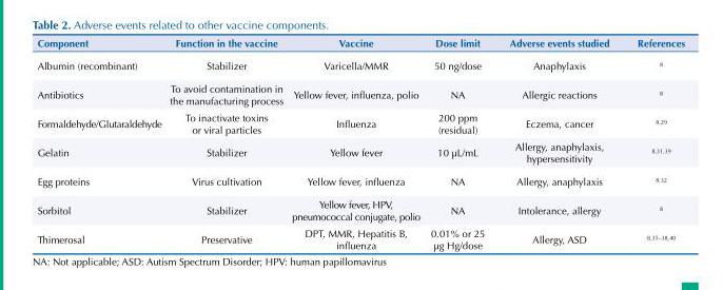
<table><thead><tr><td>Component</td><td>Function in the vaccine</td><td>Vaccine</td><td>Dose limit</td><td>Adverse events studied</td><td>References</td></tr></thead><tbody><tr><td>Albumin (recombinant)</td><td>Stabilizer</td><td>Varicella/MMR</td><td>50 ng/dose</td><td>Anaphylaxis</td><td>8</td></tr><tr><td>Antibiotics</td><td>To avoid contamination in the manufacturing process</td><td>Yellow fever, influenza, polio</td><td>NA</td><td>Allergic reactions</td><td>8</td></tr><tr><td>Formaldehyde/Glutaraldehyde</td><td>To inactivate toxins or viral particles</td><td>Influenza</td><td>200 ppm (residual)</td><td>Eczema, cancer</td><td>8,29</td></tr><tr><td>Gelatin</td><td>Stabilizer</td><td>Yellow fever</td><td>10 µL/mL</td><td>Allergy, anaphylaxis, hypersensitivity</td><td>8,31,39</td></tr><tr><td>Egg proteins</td><td>Virus cultivation</td><td>Yellow fever, influenza</td><td>NA</td><td>Allergy, anaphylaxis</td><td>8,32</td></tr><tr><td>Sorbitol</td><td>Stabilizer</td><td>Yellow fever, HPV, pneumococcal conjugate, polio</td><td>NA</td><td>Intolerance, allergy</td><td>8</td></tr><tr><td>Thimerosal</td><td>Preservative</td><td>DPT, MMR, Hepatitis B, influenza</td><td>0.01% or 25 µg Hg/dose</td><td>Allergy, ASD</td><td>8,35–38,40</td></tr></tbody></table>